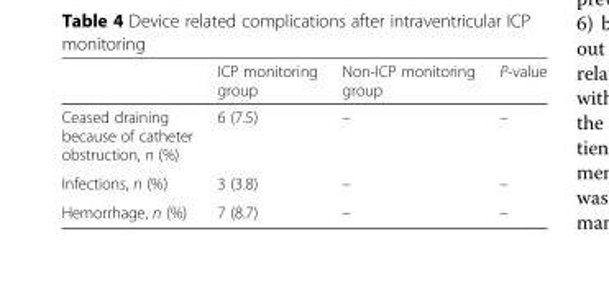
<table><thead><tr><td></td><td>ICP monitoring group</td><td>Non-ICP monitoring group</td><td>P-value</td></tr></thead><tbody><tr><td>Ceased draining because of catheter obstruction, n (%)</td><td>6 (7.5)</td><td>–</td><td>–</td></tr><tr><td>Infections, n (%)</td><td>3 (3.8)</td><td>–</td><td>–</td></tr><tr><td>Hemorrhage, n (%)</td><td>7 (8.7)</td><td>–</td><td>–</td></tr></tbody></table>